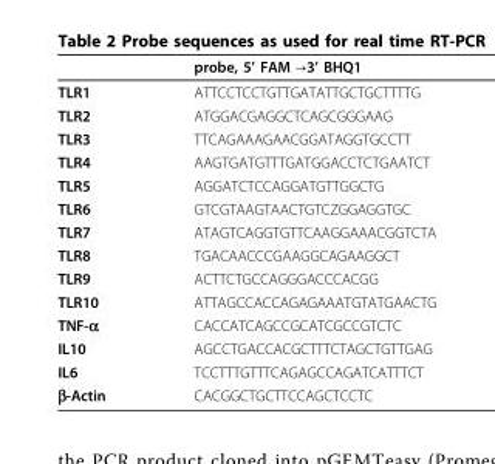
<table><thead><tr><td></td><td>probe, 5’ FAM →3’ BHQ1</td></tr></thead><tbody><tr><td>TLR1</td><td>ATTCCTCCTGTTGATATTGCTGCTTTTG</td></tr><tr><td>TLR2</td><td>ATGGACGAGGCTCAGCGGGAAG</td></tr><tr><td>TLR3</td><td>TTCAGAAAGAACGGATAGGTGCCTT</td></tr><tr><td>TLR4</td><td>AAGTGATGTTTGATGGACCTCTGAATCT</td></tr><tr><td>TLR5</td><td>AGGATCTCCAGGATGTTGGCTG</td></tr><tr><td>TLR6</td><td>GTCGTAAGTAACTGTCZGGAGGTGC</td></tr><tr><td>TLR7</td><td>ATAGTCAGGTGTTCAAGGAAACGGTCTA</td></tr><tr><td>TLR8</td><td>TGACAACCCGAAGGCAGAAGGCT</td></tr><tr><td>TLR9</td><td>ACTTCTGCCAGGGACCCACGG</td></tr><tr><td>TLR10</td><td>ATTAGCCACCAGAGAAATGTATGAACTG</td></tr><tr><td>TNF-α</td><td>CACCATCAGCCGCATCGCCGTCTC</td></tr><tr><td>IL10</td><td>AGCCTGACCACGCTTTCTAGCTGTTGAG</td></tr><tr><td>IL6</td><td>TCCTTTGTTTCAGAGCCAGATCATTTCT</td></tr><tr><td>β-Actin</td><td>CACGGCTGCTTCCAGCTCCTC</td></tr></tbody></table>